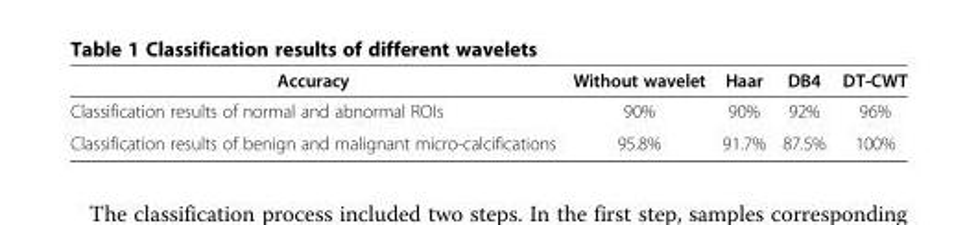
<table><thead><tr><td>Accuracy</td><td>Without wavelet</td><td>Haar</td><td>DB4</td><td>DT-CWT</td></tr></thead><tbody><tr><td>Classification results of normal and abnormal ROIs</td><td>90%</td><td>90%</td><td>92%</td><td>96%</td></tr><tr><td>Classification results of benign and malignant micro-calcifications</td><td>95.8%</td><td>91.7%</td><td>87.5%</td><td>100%</td></tr></tbody></table>